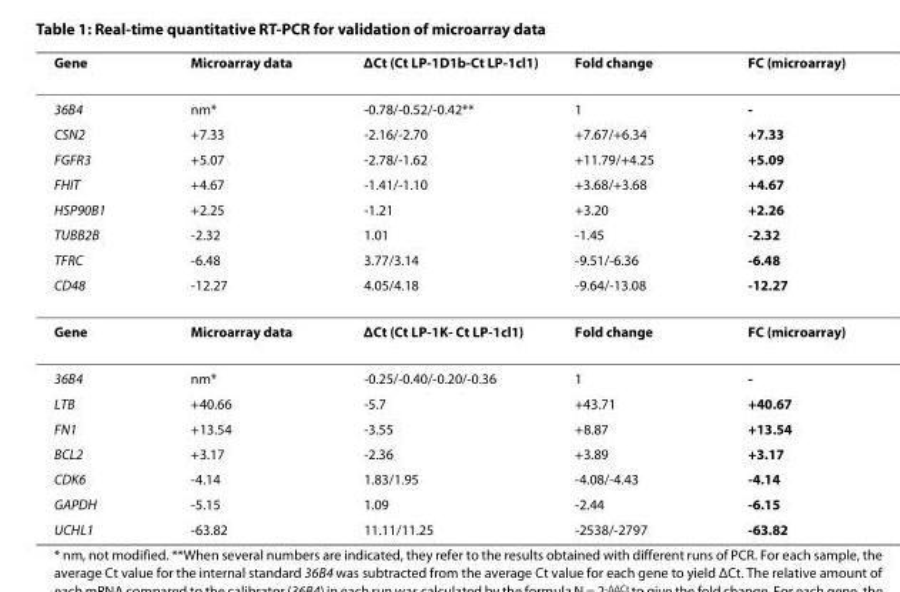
<table><thead><tr><td>Gene</td><td>Microarray data</td><td>ΔCt (Ct LP-1D1b-Ct LP-1cl1)</td><td>Fold change</td><td>FC (microarray)</td></tr></thead><tbody><tr><td>36B4</td><td>nm*</td><td>-0.78/-0.52/-0.42**</td><td>1</td><td>-</td></tr><tr><td>CSN2</td><td>+7.33</td><td>-2.16/-2.70</td><td>+7.67/+6.34</td><td>+7.33</td></tr><tr><td>FGFR3</td><td>+5.07</td><td>-2.78/-1.62</td><td>+11.79/+4.25</td><td>+5.09</td></tr><tr><td>FHIT</td><td>+4.67</td><td>-1.41/-1.10</td><td>+3.68/+3.68</td><td>+4.67</td></tr><tr><td>HSP90B1</td><td>+2.25</td><td>-1.21</td><td>+3.20</td><td>+2.26</td></tr><tr><td>TUBB2B</td><td>-2.32</td><td>1.01</td><td>-1.45</td><td>-2.32</td></tr><tr><td>TFRC</td><td>-6.48</td><td>3.77/3.14</td><td>-9.51/-6.36</td><td>-6.48</td></tr><tr><td>CD48</td><td>-12.27</td><td>4.05/4.18</td><td>-9.64/-13.08</td><td>-12.27</td></tr><tr><td>Gene</td><td>Microarray data</td><td>ΔCt (Ct LP-1K- Ct LP-1cl1)</td><td>Fold change</td><td>FC (microarray)</td></tr><tr><td>36B4</td><td>nm*</td><td>-0.25/-0.40/-0.20/-0.36</td><td>1</td><td>-</td></tr><tr><td>LTB</td><td>+40.66</td><td>-5.7</td><td>+43.71</td><td>+40.67</td></tr><tr><td>FN1</td><td>+13.54</td><td>-3.55</td><td>+8.87</td><td>+13.54</td></tr><tr><td>BCL2</td><td>+3.17</td><td>-2.36</td><td>+3.89</td><td>+3.17</td></tr><tr><td>CDK6</td><td>-4.14</td><td>1.83/1.95</td><td>-4.08/-4.43</td><td>-4.14</td></tr><tr><td>GAPDH</td><td>-5.15</td><td>1.09</td><td>-2.44</td><td>-6.15</td></tr><tr><td>UCHL1</td><td>-63.82</td><td>11.11/11.25</td><td>-2538/-2797</td><td>-63.82</td></tr></tbody></table>